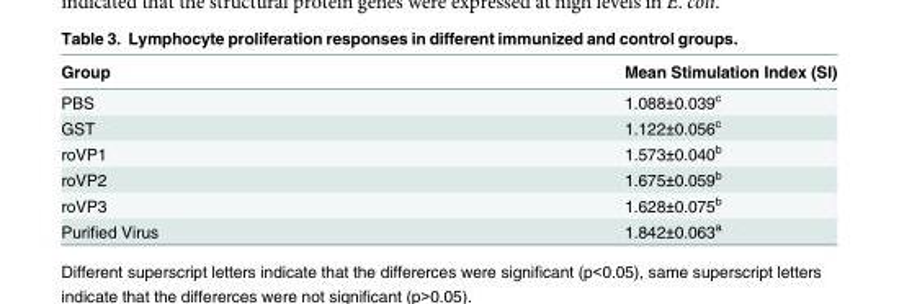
<table><thead><tr><td>Group</td><td>Mean Stimulation Index (SI)</td></tr></thead><tbody><tr><td>PBS</td><td>1.088±0.039<sup>c</sup></td></tr><tr><td>GST</td><td>1.122±0.056<sup>c</sup></td></tr><tr><td>roVP1</td><td>1.573±0.040<sup>b</sup></td></tr><tr><td>roVP2</td><td>1.675±0.059<sup>b</sup></td></tr><tr><td>roVP3</td><td>1.628±0.075<sup>b</sup></td></tr><tr><td>Purified Virus</td><td>1.842±0.063<sup>a</sup></td></tr></tbody></table>